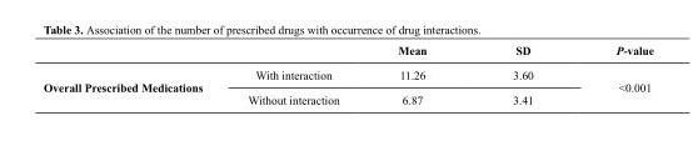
<table><thead><tr><td></td><td></td><td>Mean</td><td>SD</td><td>P-value</td></tr></thead><tbody><tr><td rowspan="2">Overall Prescribed Medications</td><td>With interaction</td><td>11.26</td><td>3.60</td><td rowspan="2">&lt;0.001</td></tr><tr><td>Without interaction</td><td>6.87</td><td>3.41</td></tr></tbody></table>